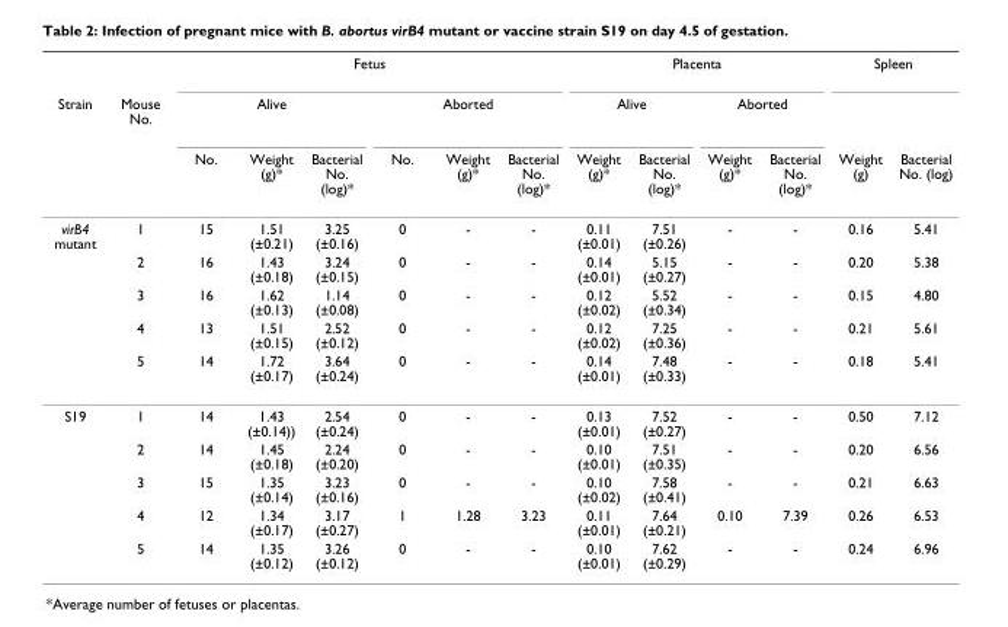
<table><thead><tr><td rowspan="3">Strain</td><td rowspan="3">Mouse No.</td><td colspan="6">Fetus</td><td colspan="4">Placenta</td><td colspan="2">Spleen</td></tr><tr><td colspan="3">Alive</td><td colspan="3">Aborted</td><td colspan="2">Alive</td><td colspan="2">Aborted</td><td rowspan="2">Weight (g)</td><td rowspan="2">Bacterial No. (log)</td></tr><tr><td>No.</td><td>Weight (g)*</td><td>Bacterial No. (log)*</td><td>No.</td><td>Weight (g)*</td><td>Bacterial No. (log)*</td><td>Weight (g)*</td><td>Bacterial No. (log)*</td><td>Weight (g)*</td><td>Bacterial No. (log)*</td></tr></thead><tbody><tr><td rowspan="5">virB4 mutant</td><td>1</td><td>15</td><td>1.51 (±0.21)</td><td>3.25 (±0.16)</td><td>0</td><td>-</td><td>-</td><td>0.11 (±0.01)</td><td>7.51 (±0.26)</td><td>-</td><td>-</td><td>0.16</td><td>5.41</td></tr><tr><td>2</td><td>16</td><td>1.43 (±0.18)</td><td>3.24 (±0.15)</td><td>0</td><td>-</td><td>-</td><td>0.14 (±0.01)</td><td>5.15 (±0.27)</td><td>-</td><td>-</td><td>0.20</td><td>5.38</td></tr><tr><td>3</td><td>16</td><td>1.62 (±0.13)</td><td>1.14 (±0.08)</td><td>0</td><td>-</td><td>-</td><td>0.12 (±0.02)</td><td>5.52 (±0.34)</td><td>-</td><td>-</td><td>0.15</td><td>4.80</td></tr><tr><td>4</td><td>13</td><td>1.51 (±0.15)</td><td>2.52 (±0.12)</td><td>0</td><td>-</td><td>-</td><td>0.12 (±0.02)</td><td>7.25 (±0.36)</td><td>-</td><td>-</td><td>0.21</td><td>5.61</td></tr><tr><td>5</td><td>14</td><td>1.72 (±0.17)</td><td>3.64 (±0.24)</td><td>0</td><td>-</td><td>-</td><td>0.14 (±0.01)</td><td>7.48 (±0.33)</td><td>-</td><td>-</td><td>0.18</td><td>5.41</td></tr><tr><td rowspan="5">S19</td><td>1</td><td>14</td><td>1.43 (±0.14))</td><td>2.54 (±0.24)</td><td>0</td><td>-</td><td>-</td><td>0.13 (±0.01)</td><td>7.52 (±0.27)</td><td>-</td><td>-</td><td>0.50</td><td>7.12</td></tr><tr><td>2</td><td>14</td><td>1.45 (±0.18)</td><td>2.24 (±0.20)</td><td>0</td><td>-</td><td>-</td><td>0.10 (±0.01)</td><td>7.51 (±0.35)</td><td>-</td><td>-</td><td>0.20</td><td>6.56</td></tr><tr><td>3</td><td>15</td><td>1.35 (±0.14)</td><td>3.23 (±0.16)</td><td>0</td><td>-</td><td>-</td><td>0.10 (±0.02)</td><td>7.58 (±0.41)</td><td>-</td><td>-</td><td>0.21</td><td>6.63</td></tr><tr><td>4</td><td>12</td><td>1.34 (±0.17)</td><td>3.17 (±0.27)</td><td>1</td><td>1.28</td><td>3.23</td><td>0.11 (±0.01)</td><td>7.64 (±0.21)</td><td>0.10</td><td>7.39</td><td>0.26</td><td>6.53</td></tr><tr><td>5</td><td>14</td><td>1.35 (±0.12)</td><td>3.26 (±0.12)</td><td>0</td><td>-</td><td>-</td><td>0.10 (±0.01)</td><td>7.62 (±0.29)</td><td>-</td><td>-</td><td>0.24</td><td>6.96</td></tr></tbody></table>